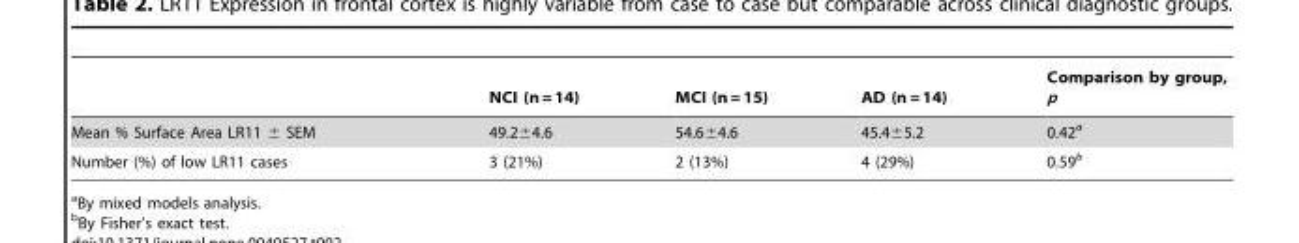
<table><thead><tr><td></td><td>NCI (n = 14)</td><td>MCI (n = 15)</td><td>AD (n = 14)</td><td>Comparison by group, p</td></tr></thead><tbody><tr><td>Mean % Surface Area LR11 ± SEM</td><td>49.2±4.6</td><td>54.6±4.6</td><td>45.4±5.2</td><td>0.42<sup>a</sup></td></tr><tr><td>Number (%) of low LR11 cases</td><td>3 (21%)</td><td>2 (13%)</td><td>4 (29%)</td><td>0.59<sup>b</sup></td></tr></tbody></table>